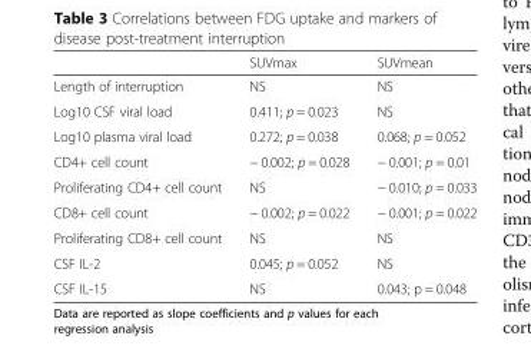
<table><thead><tr><td></td><td>SUVmax</td><td>SUVmean</td></tr></thead><tbody><tr><td>Length of interruption</td><td>NS</td><td>NS</td></tr><tr><td>Log10 CSF viral load</td><td>0.411; p = 0.023</td><td>NS</td></tr><tr><td>Log10 plasma viral load</td><td>0.272; p = 0.038</td><td>0.068; p = 0.052</td></tr><tr><td>CD4+ cell count</td><td>− 0.002; p = 0.028</td><td>− 0.001; p = 0.01</td></tr><tr><td>Proliferating CD4+ cell count</td><td>NS</td><td>− 0.010; p = 0.033</td></tr><tr><td>CD8+ cell count</td><td>− 0.002; p = 0.022</td><td>− 0.001; p = 0.022</td></tr><tr><td>Proliferating CD8+ cell count</td><td>NS</td><td>NS</td></tr><tr><td>CSF IL-2</td><td>0.045; p = 0.052</td><td>NS</td></tr><tr><td>CSF IL-15</td><td>NS</td><td>0.043; p = 0.048</td></tr></tbody></table>